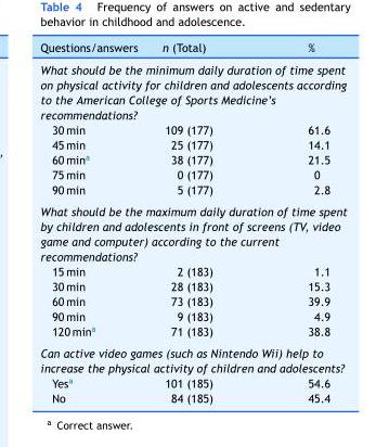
<table><thead><tr><td>Questions/answers</td><td>n (Total)</td><td>%</td></tr></thead><tbody><tr><td colspan="3">What should be the minimum daily duration of time spent on physical activity for children and adolescents according to the American College of Sports Medicine’s recommendations?</td></tr><tr><td>30 min</td><td>109 (177)</td><td>61.6</td></tr><tr><td>45 min</td><td>25 (177)</td><td>14.1</td></tr><tr><td>60 min<sup>a</sup></td><td>38 (177)</td><td>21.5</td></tr><tr><td>75 min</td><td>0 (177)</td><td>0</td></tr><tr><td>90 min</td><td>5 (177)</td><td>2.8</td></tr><tr><td colspan="3">What should be the maximum daily duration of time spent by children and adolescents in front of screens (TV, video game and computer) according to the current recommendations?</td></tr><tr><td>15 min</td><td>2 (183)</td><td>1.1</td></tr><tr><td>30 min</td><td>28 (183)</td><td>15.3</td></tr><tr><td>60 min</td><td>73 (183)</td><td>39.9</td></tr><tr><td>90 min</td><td>9 (183)</td><td>4.9</td></tr><tr><td>120 min<sup>a</sup></td><td>71 (183)</td><td>38.8</td></tr><tr><td colspan="3">Can active video games (such as Nintendo Wii) help to increase the physical activity of children and adolescents?</td></tr><tr><td>Yes<sup>a</sup></td><td>101 (185)</td><td>54.6</td></tr><tr><td>No</td><td>84 (185)</td><td>45.4</td></tr></tbody></table>